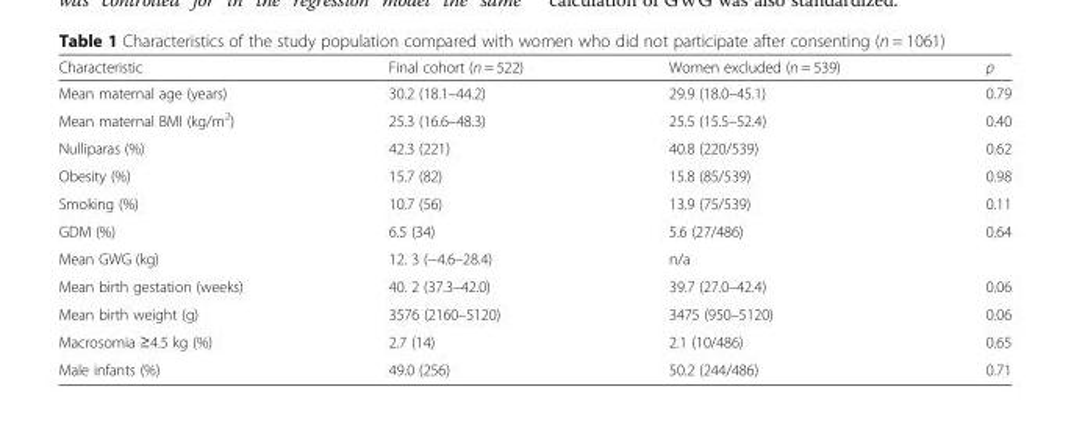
<table><thead><tr><td>Characteristic</td><td>Final cohort (n = 522)</td><td>Women excluded (n = 539)</td><td>p</td></tr></thead><tbody><tr><td>Mean maternal age (years)</td><td>30.2 (18.1–44.2)</td><td>29.9 (18.0–45.1)</td><td>0.79</td></tr><tr><td>Mean maternal BMI (kg/m<sup>2</sup>)</td><td>25.3 (16.6–48.3)</td><td>25.5 (15.5–52.4)</td><td>0.40</td></tr><tr><td>Nulliparas (%)</td><td>42.3 (221)</td><td>40.8 (220/539)</td><td>0.62</td></tr><tr><td>Obesity (%)</td><td>15.7 (82)</td><td>15.8 (85/539)</td><td>0.98</td></tr><tr><td>Smoking (%)</td><td>10.7 (56)</td><td>13.9 (75/539)</td><td>0.11</td></tr><tr><td>GDM (%)</td><td>6.5 (34)</td><td>5.6 (27/486)</td><td>0.64</td></tr><tr><td>Mean GWG (kg)</td><td>12. 3 (−4.6–28.4)</td><td>n/a</td><td></td></tr><tr><td>Mean birth gestation (weeks)</td><td>40. 2 (37.3–42.0)</td><td>39.7 (27.0–42.4)</td><td>0.06</td></tr><tr><td>Mean birth weight (g)</td><td>3576 (2160–5120)</td><td>3475 (950–5120)</td><td>0.06</td></tr><tr><td>Macrosomia ≥4.5 kg (%)</td><td>2.7 (14)</td><td>2.1 (10/486)</td><td>0.65</td></tr><tr><td>Male infants (%)</td><td>49.0 (256)</td><td>50.2 (244/486)</td><td>0.71</td></tr></tbody></table>